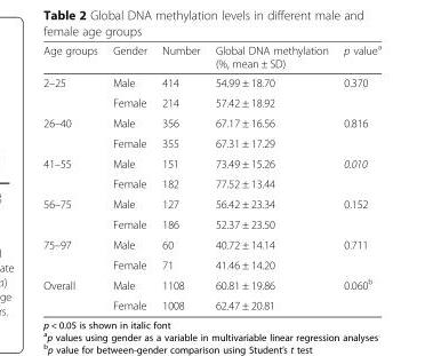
<table><thead><tr><td>Age groups</td><td>Gender</td><td>Number</td><td>Global DNA methylation (%, mean ± SD)</td><td>p value<sup>a</sup></td></tr></thead><tbody><tr><td rowspan="2">2–25</td><td>Male</td><td>414</td><td>54.99 ± 18.70</td><td>0.370</td></tr><tr><td>Female</td><td>214</td><td>57.42 ± 18.92</td><td></td></tr><tr><td rowspan="2">26–40</td><td>Male</td><td>356</td><td>67.17 ± 16.56</td><td>0.816</td></tr><tr><td>Female</td><td>355</td><td>67.31 ± 17.29</td><td></td></tr><tr><td rowspan="2">41–55</td><td>Male</td><td>151</td><td>73.49 ± 15.26</td><td>0.010</td></tr><tr><td>Female</td><td>182</td><td>77.52 ± 13.44</td><td></td></tr><tr><td rowspan="2">56–75</td><td>Male</td><td>127</td><td>56.42 ± 23.34</td><td>0.152</td></tr><tr><td>Female</td><td>186</td><td>52.37 ± 23.50</td><td></td></tr><tr><td rowspan="2">75–97</td><td>Male</td><td>60</td><td>40.72 ± 14.14</td><td>0.711</td></tr><tr><td>Female</td><td>71</td><td>41.46 ± 14.20</td><td></td></tr><tr><td rowspan="2">Overall</td><td>Male</td><td>1108</td><td>60.81 ± 19.86</td><td>0.060<sup>b</sup></td></tr><tr><td>Female</td><td>1008</td><td>62.47 ± 20.81</td><td></td></tr></tbody></table>